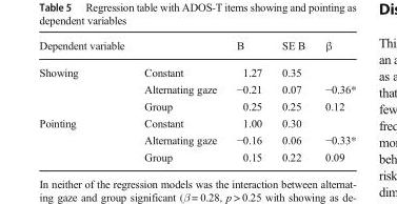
<table><thead><tr><td>Dependent variable</td><td></td><td>B</td><td>SE B</td><td>β</td></tr></thead><tbody><tr><td rowspan="3">Showing</td><td>Constant</td><td>1.27</td><td>0.35</td><td></td></tr><tr><td>Alternating gaze</td><td>−0.21</td><td>0.07</td><td>−0.36*</td></tr><tr><td>Group</td><td>0.25</td><td>0.25</td><td>0.12</td></tr><tr><td rowspan="3">Pointing</td><td>Constant</td><td>1.00</td><td>0.30</td><td></td></tr><tr><td>Alternating gaze</td><td>−0.16</td><td>0.06</td><td>−0.33*</td></tr><tr><td>Group</td><td>0.15</td><td>0.22</td><td>0.09</td></tr></tbody></table>